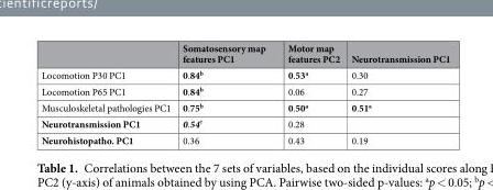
<table><thead><tr><td></td><td>Somatosensory map features PC1</td><td>Motor map features PC2</td><td>Neurotransmission PC1</td></tr></thead><tbody><tr><td>Locomotion P30 PC1</td><td>0.84<sup>b</sup></td><td>0.53<sup>a</sup></td><td>0.30</td></tr><tr><td>Locomotion P65 PC1</td><td>0.84<sup>b</sup></td><td>0.06</td><td>0.27</td></tr><tr><td>Musculoskeletal pathologies PC1</td><td>0.75<sup>b</sup></td><td>0.50<sup>a</sup></td><td>0.51<sup>a</sup></td></tr><tr><td>Neurotransmission PC1</td><td>0.54<sup>†</sup></td><td>0.28</td><td></td></tr><tr><td>Neurohistopatho. PC1</td><td>0.36</td><td>0.43</td><td>0.19</td></tr></tbody></table>